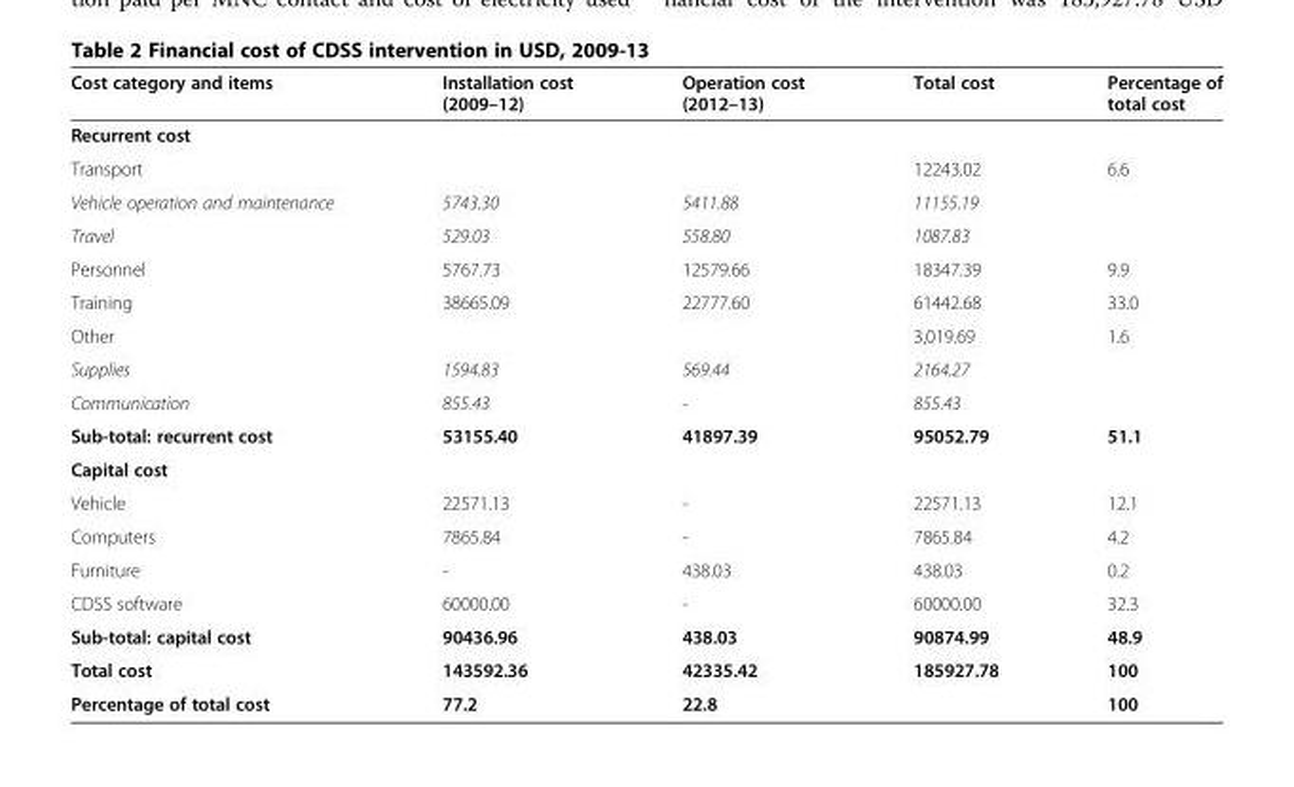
<table><thead><tr><td>Cost category and items</td><td>Installation cost (2009–12)</td><td>Operation cost (2012–13)</td><td>Total cost</td><td>Percentage of total cost</td></tr></thead><tbody><tr><td colspan="5">Recurrent cost</td></tr><tr><td>Transport</td><td></td><td></td><td>12243.02</td><td>6.6</td></tr><tr><td>Vehicle operation and maintenance</td><td>5743.30</td><td>5411.88</td><td>11155.19</td><td></td></tr><tr><td>Travel</td><td>529.03</td><td>558.80</td><td>1087.83</td><td></td></tr><tr><td>Personnel</td><td>5767.73</td><td>12579.66</td><td>18347.39</td><td>9.9</td></tr><tr><td>Training</td><td>38665.09</td><td>22777.60</td><td>61442.68</td><td>33.0</td></tr><tr><td>Other</td><td></td><td></td><td>3,019.69</td><td>1.6</td></tr><tr><td>Supplies</td><td>1594.83</td><td>569.44</td><td>2164.27</td><td></td></tr><tr><td>Communication</td><td>855.43</td><td>-</td><td>855.43</td><td></td></tr><tr><td>Sub-total: recurrent cost</td><td>53155.40</td><td>41897.39</td><td>95052.79</td><td>51.1</td></tr><tr><td colspan="5">Capital cost</td></tr><tr><td>Vehicle</td><td>22571.13</td><td>-</td><td>22571.13</td><td>12.1</td></tr><tr><td>Computers</td><td>7865.84</td><td>-</td><td>7865.84</td><td>4.2</td></tr><tr><td>Furniture</td><td>-</td><td>438.03</td><td>438.03</td><td>0.2</td></tr><tr><td>CDSS software</td><td>60000.00</td><td>-</td><td>60000.00</td><td>32.3</td></tr><tr><td>Sub-total: capital cost</td><td>90436.96</td><td>438.03</td><td>90874.99</td><td>48.9</td></tr><tr><td>Total cost</td><td>143592.36</td><td>42335.42</td><td>185927.78</td><td>100</td></tr><tr><td>Percentage of total cost</td><td>77.2</td><td>22.8</td><td></td><td>100</td></tr></tbody></table>